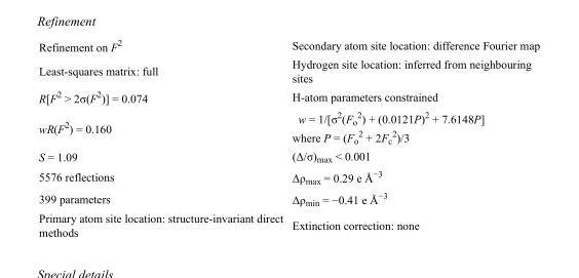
<table><tbody><tr><td>Refinement on F<sup>2</sup></td><td>Secondary atom site location: difference Fourier map</td></tr><tr><td>Least-squares matrix: full</td><td>Hydrogen site location: inferred from neighbouring sites</td></tr><tr><td>R[F<sup>2</sup> &gt; 2σ(F<sup>2</sup>)] = 0.074</td><td>H-atom parameters constrained</td></tr><tr><td>wR(F<sup>2</sup>) = 0.160</td><td>w = 1/[σ<sup>2</sup>(F<sub>o</sub> <sup>2</sup>) + (0.0121P)<sup>2</sup> + 7.6148P] where P = (F<sub>o</sub> <sup>2</sup> + 2F<sub>c</sub> <sup>2</sup>)/3</td></tr><tr><td>S = 1.09</td><td>(Δ/σ)<sub>max</sub> &lt; 0.001</td></tr><tr><td>5576 reflections</td><td>Δρ<sub>max</sub> = 0.29 e Å<sup>−3</sup></td></tr><tr><td>399 parameters</td><td>Δρ<sub>min</sub> = −0.41 e Å<sup>−3</sup></td></tr><tr><td>Primary atom site location: structure-invariant direct methods</td><td>Extinction correction: none</td></tr></tbody></table>